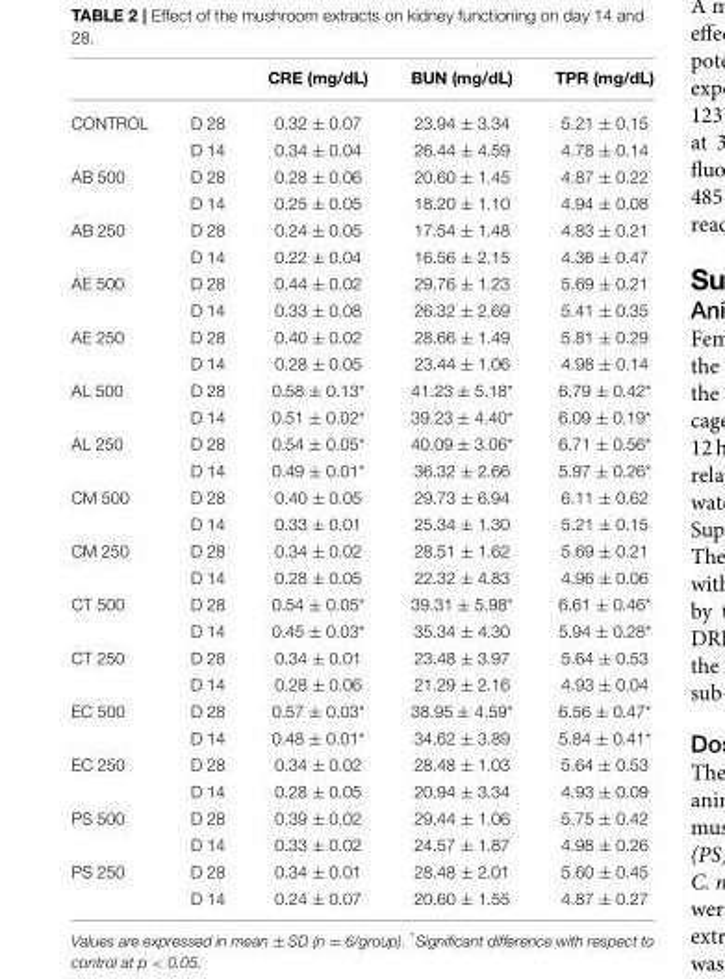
<table><thead><tr><td></td><td></td><td>CRE (mg/dL)</td><td>BUN (mg/dL)</td><td>TPR (mg/dL)</td></tr></thead><tbody><tr><td rowspan="2">CONTROL</td><td>D 28</td><td>0.32 ± 0.07</td><td>23.94 ± 3.34</td><td>5.21 ± 0.15</td></tr><tr><td>D 14</td><td>0.34 ± 0.04</td><td>26.44 ± 4.59</td><td>4.78 ± 0.14</td></tr><tr><td rowspan="2">AB 500</td><td>D 28</td><td>0.28 ± 0.06</td><td>20.60 ± 1.45</td><td>4.87 ± 0.22</td></tr><tr><td>D 14</td><td>0.25 ± 0.05</td><td>18.20 ± 1.10</td><td>4.94 ± 0.08</td></tr><tr><td rowspan="2">AB 250</td><td>D 28</td><td>0.24 ± 0.05</td><td>17.54 ± 1.48</td><td>4.83 ± 0.21</td></tr><tr><td>D 14</td><td>0.22 ± 0.04</td><td>16.56 ± 2.15</td><td>4.36 ± 0.47</td></tr><tr><td rowspan="2">AE 500</td><td>D 28</td><td>0.44 ± 0.02</td><td>29.76 ± 1.23</td><td>5.69 ± 0.21</td></tr><tr><td>D 14</td><td>0.33 ± 0.08</td><td>26.32 ± 2.69</td><td>5.41 ± 0.35</td></tr><tr><td rowspan="2">AE 250</td><td>D 28</td><td>0.40 ± 0.02</td><td>28.66 ± 1.49</td><td>5.81 ± 0.29</td></tr><tr><td>D 14</td><td>0.28 ± 0.05</td><td>23.44 ± 1.06</td><td>4.98 ± 0.14</td></tr><tr><td rowspan="2">AL 500</td><td>D 28</td><td>0.58 ± 0.13*</td><td>41.23 ± 5.18*</td><td>6.79 ± 0.42*</td></tr><tr><td>D 14</td><td>0.51 ± 0.02*</td><td>39.23 ± 4.40*</td><td>6.09 ± 0.19*</td></tr><tr><td rowspan="2">AL 250</td><td>D 28</td><td>0.54 ± 0.05*</td><td>40.09 ± 3.06*</td><td>6.71 ± 0.56*</td></tr><tr><td>D 14</td><td>0.49 ± 0.01*</td><td>36.32 ± 2.66</td><td>5.97 ± 0.26*</td></tr><tr><td rowspan="2">CM 500</td><td>D 28</td><td>0.40 ± 0.05</td><td>29.73 ± 6.94</td><td>6.11 ± 0.62</td></tr><tr><td>D 14</td><td>0.33 ± 0.01</td><td>25.34 ± 1.30</td><td>5.21 ± 0.15</td></tr><tr><td rowspan="2">CM 250</td><td>D 28</td><td>0.34 ± 0.02</td><td>28.51 ± 1.62</td><td>5.69 ± 0.21</td></tr><tr><td>D 14</td><td>0.28 ± 0.05</td><td>22.32 ± 4.83</td><td>4.96 ± 0.06</td></tr><tr><td rowspan="2">CT 500</td><td>D 28</td><td>0.54 ± 0.05*</td><td>39.31 ± 5.98*</td><td>6.61 ± 0.46*</td></tr><tr><td>D 14</td><td>0.45 ± 0.03*</td><td>35.34 ± 4.30</td><td>5.94 ± 0.28*</td></tr><tr><td rowspan="2">CT 250</td><td>D 28</td><td>0.34 ± 0.01</td><td>23.48 ± 3.97</td><td>5.64 ± 0.53</td></tr><tr><td>D 14</td><td>0.28 ± 0.06</td><td>21.29 ± 2.16</td><td>4.93 ± 0.04</td></tr><tr><td rowspan="2">EC 500</td><td>D 28</td><td>0.57 ± 0.03*</td><td>38.95 ± 4.59*</td><td>6.56 ± 0.47*</td></tr><tr><td>D 14</td><td>0.48 ± 0.01*</td><td>34.62 ± 3.89</td><td>5.84 ± 0.41*</td></tr><tr><td rowspan="2">EC 250</td><td>D 28</td><td>0.34 ± 0.02</td><td>28.48 ± 1.03</td><td>5.64 ± 0.53</td></tr><tr><td>D 14</td><td>0.28 ± 0.05</td><td>20.94 ± 3.34</td><td>4.93 ± 0.09</td></tr><tr><td rowspan="2">PS 500</td><td>D 28</td><td>0.39 ± 0.02</td><td>29.44 ± 1.06</td><td>5.75 ± 0.42</td></tr><tr><td>D 14</td><td>0.33 ± 0.02</td><td>24.57 ± 1.87</td><td>4.98 ± 0.26</td></tr><tr><td rowspan="2">PS 250</td><td>D 28</td><td>0.34 ± 0.01</td><td>28.48 ± 2.01</td><td>5.60 ± 0.45</td></tr><tr><td>D 14</td><td>0.24 ± 0.07</td><td>20.60 ± 1.55</td><td>4.87 ± 0.27</td></tr></tbody></table>